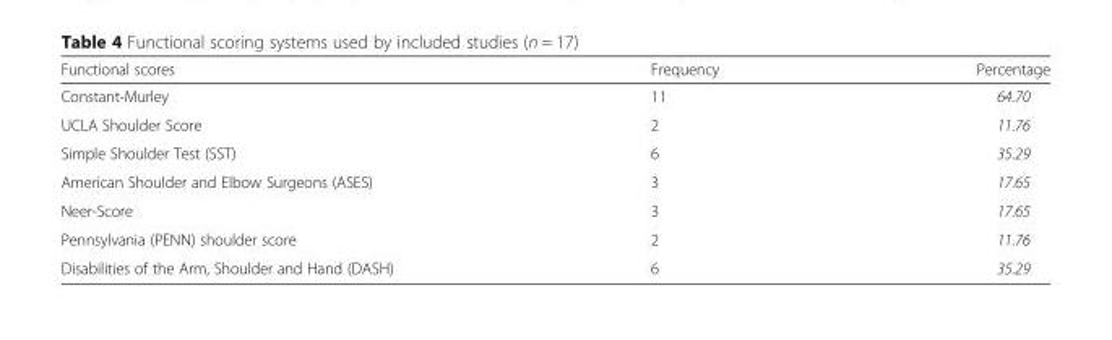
<table><thead><tr><td>Functional scores</td><td>Frequency</td><td>Percentage</td></tr></thead><tbody><tr><td>Constant-Murley</td><td>11</td><td>64.70</td></tr><tr><td>UCLA Shoulder Score</td><td>2</td><td>11.76</td></tr><tr><td>Simple Shoulder Test (SST)</td><td>6</td><td>35.29</td></tr><tr><td>American Shoulder and Elbow Surgeons (ASES)</td><td>3</td><td>17.65</td></tr><tr><td>Neer-Score</td><td>3</td><td>17.65</td></tr><tr><td>Pennsylvania (PENN) shoulder score</td><td>2</td><td>11.76</td></tr><tr><td>Disabilities of the Arm, Shoulder and Hand (DASH)</td><td>6</td><td>35.29</td></tr></tbody></table>